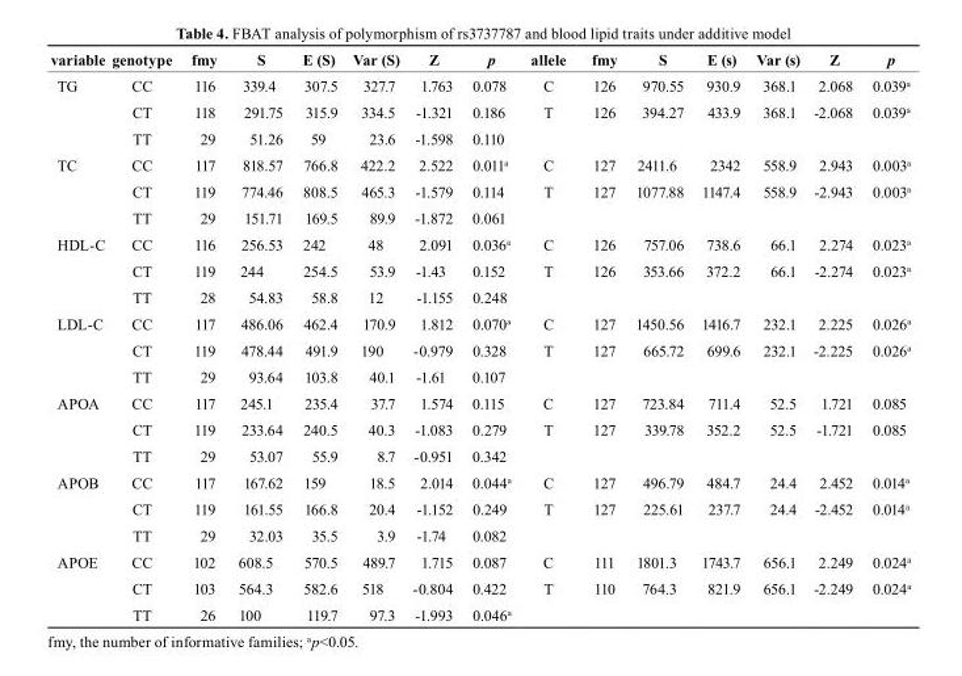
<table><thead><tr><td>variable</td><td>genotype</td><td>fmy</td><td>s</td><td>E (s)</td><td>Var (s)</td><td>Z</td><td>p</td><td>allele</td><td>fmy</td><td>s</td><td>E (s)</td><td>Var (s)</td><td>Z</td><td>p</td></tr></thead><tbody><tr><td rowspan="3">TG</td><td>CC</td><td>116</td><td>339.4</td><td>307.5</td><td>327.7</td><td>1.763</td><td>0.078</td><td>C</td><td>126</td><td>970.55</td><td>930.9</td><td>368.1</td><td>2.068</td><td>0.039<sup>a</sup></td></tr><tr><td>CT</td><td>118</td><td>291.75</td><td>315.9</td><td>334.5</td><td>-1.321</td><td>0.186</td><td rowspan="2">T</td><td rowspan="2">126</td><td rowspan="2">394.27</td><td rowspan="2">433.9</td><td rowspan="2">368.1</td><td rowspan="2">-2.068</td><td rowspan="2">0.039<sup>a</sup></td></tr><tr><td>TT</td><td>29</td><td>51.26</td><td>59</td><td>23.6</td><td>-1.598</td><td>0.110</td></tr><tr><td rowspan="3">TC</td><td>CC</td><td>117</td><td>818.57</td><td>766.8</td><td>422.2</td><td>2.522</td><td>0.011<sup>a</sup></td><td>C</td><td>127</td><td>2411.6</td><td>2342</td><td>558.9</td><td>2.943</td><td>0.003<sup>a</sup></td></tr><tr><td>CT</td><td>119</td><td>774.46</td><td>808.5</td><td>465.3</td><td>-1.579</td><td>0.114</td><td rowspan="2">T</td><td rowspan="2">127</td><td rowspan="2">1077.88</td><td rowspan="2">1147.4</td><td rowspan="2">558.9</td><td rowspan="2">-2.943</td><td rowspan="2">0.003<sup>a</sup></td></tr><tr><td>TT</td><td>29</td><td>151.71</td><td>169.5</td><td>89.9</td><td>-1.872</td><td>0.061</td></tr><tr><td rowspan="3">HDL-C</td><td>CC</td><td>116</td><td>256.53</td><td>242</td><td>48</td><td>2.091</td><td>0.036<sup>a</sup></td><td>C</td><td>126</td><td>757.06</td><td>738.6</td><td>66.1</td><td>2.274</td><td>0.023<sup>a</sup></td></tr><tr><td>CT</td><td>119</td><td>244</td><td>254.5</td><td>53.9</td><td>-1.43</td><td>0.152</td><td rowspan="2">T</td><td rowspan="2">126</td><td rowspan="2">353.66</td><td rowspan="2">372.2</td><td rowspan="2">66.1</td><td rowspan="2">-2.274</td><td rowspan="2">0.023<sup>a</sup></td></tr><tr><td>TT</td><td>28</td><td>54.83</td><td>58.8</td><td>12</td><td>-1.155</td><td>0.248</td></tr><tr><td rowspan="3">LDL-C</td><td>CC</td><td>117</td><td>486.06</td><td>462.4</td><td>170.9</td><td>1.812</td><td>0.070<sup>a</sup></td><td>C</td><td>127</td><td>1450.56</td><td>1416.7</td><td>232.1</td><td>2.225</td><td>0.026<sup>a</sup></td></tr><tr><td>CT</td><td>119</td><td>478.44</td><td>491.9</td><td>190</td><td>-0.979</td><td>0.328</td><td rowspan="2">T</td><td rowspan="2">127</td><td rowspan="2">665.72</td><td rowspan="2">699.6</td><td rowspan="2">232.1</td><td rowspan="2">-2.225</td><td rowspan="2">0.026<sup>a</sup></td></tr><tr><td>TT</td><td>29</td><td>93.64</td><td>103.8</td><td>40.1</td><td>-1.61</td><td>0.107</td></tr><tr><td rowspan="3">APOA</td><td>CC</td><td>117</td><td>245.1</td><td>235.4</td><td>37.7</td><td>1.574</td><td>0.115</td><td>C</td><td>127</td><td>723.84</td><td>711.4</td><td>52.5</td><td>1.721</td><td>0.085</td></tr><tr><td>CT</td><td>119</td><td>233.64</td><td>240.5</td><td>40.3</td><td>-1.083</td><td>0.279</td><td rowspan="2">T</td><td rowspan="2">127</td><td rowspan="2">339.78</td><td rowspan="2">352.2</td><td rowspan="2">52.5</td><td rowspan="2">-1.721</td><td rowspan="2">0.085</td></tr><tr><td>TT</td><td>29</td><td>53.07</td><td>55.9</td><td>8.7</td><td>-0.951</td><td>0.342</td></tr><tr><td rowspan="3">APOB</td><td>CC</td><td>117</td><td>167.62</td><td>159</td><td>18.5</td><td>2.014</td><td>0.044<sup>a</sup></td><td>C</td><td>127</td><td>496.79</td><td>484.7</td><td>24.4</td><td>2.452</td><td>0.014<sup>a</sup></td></tr><tr><td>CT</td><td>119</td><td>161.55</td><td>166.8</td><td>20.4</td><td>-1.152</td><td>0.249</td><td rowspan="2">T</td><td rowspan="2">127</td><td rowspan="2">225.61</td><td rowspan="2">237.7</td><td rowspan="2">24.4</td><td rowspan="2">-2.452</td><td rowspan="2">0.014<sup>a</sup></td></tr><tr><td>TT</td><td>29</td><td>32.03</td><td>35.5</td><td>3.9</td><td>-1.74</td><td>0.082</td></tr><tr><td rowspan="3">APOE</td><td>CC</td><td>102</td><td>608.5</td><td>570.5</td><td>489.7</td><td>1.715</td><td>0.087</td><td>C</td><td>111</td><td>1801.3</td><td>1743.7</td><td>656.1</td><td>2.249</td><td>0.024<sup>a</sup></td></tr><tr><td>CT</td><td>103</td><td>564.3</td><td>582.6</td><td>518</td><td>-0.804</td><td>0.422</td><td rowspan="2">T</td><td rowspan="2">110</td><td rowspan="2">764.3</td><td rowspan="2">821.9</td><td rowspan="2">656.1</td><td rowspan="2">-2.249</td><td rowspan="2">0.024<sup>a</sup></td></tr><tr><td>TT</td><td>26</td><td>100</td><td>119.7</td><td>97.3</td><td>-1.993</td><td>0.046<sup>a</sup></td></tr></tbody></table>